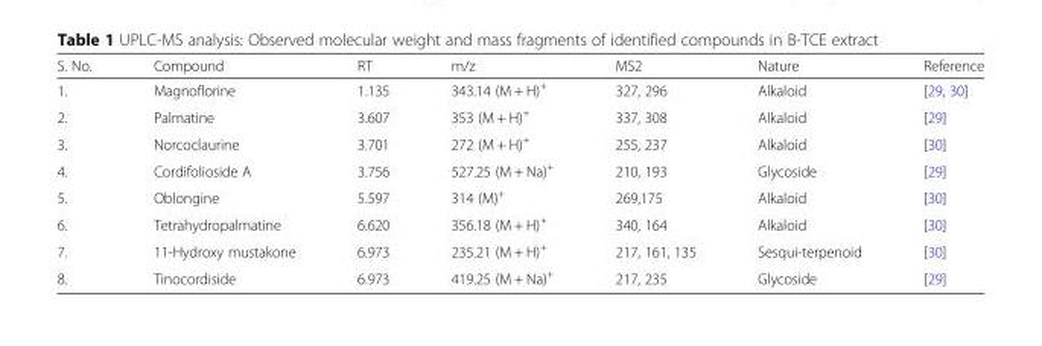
<table><thead><tr><td>S. No.</td><td>Compound</td><td>RT</td><td>m/z</td><td>MS2</td><td>Nature</td><td>Reference</td></tr></thead><tbody><tr><td>1.</td><td>Magnoflorine</td><td>1.135</td><td>343.14 (M + H)<sup>+</sup></td><td>327, 296</td><td>Alkaloid</td><td>[29, 30]</td></tr><tr><td>2.</td><td>Palmatine</td><td>3.607</td><td>353 (M + H)<sup>+</sup></td><td>337, 308</td><td>Alkaloid</td><td>[29]</td></tr><tr><td>3.</td><td>Norcoclaurine</td><td>3.701</td><td>272 (M + H)<sup>+</sup></td><td>255, 237</td><td>Alkaloid</td><td>[30]</td></tr><tr><td>4.</td><td>Cordifolioside A</td><td>3.756</td><td>527.25 (M + Na)<sup>+</sup></td><td>210, 193</td><td>Glycoside</td><td>[29]</td></tr><tr><td>5.</td><td>Oblongine</td><td>5.597</td><td>314 (M)<sup>+</sup></td><td>269,175</td><td>Alkaloid</td><td>[30]</td></tr><tr><td>6.</td><td>Tetrahydropalmatine</td><td>6.620</td><td>356.18 (M + H)<sup>+</sup></td><td>340, 164</td><td>Alkaloid</td><td>[30]</td></tr><tr><td>7.</td><td>11-Hydroxy mustakone</td><td>6.973</td><td>235.21 (M + H)<sup>+</sup></td><td>217, 161, 135</td><td>Sesqui-terpenoid</td><td>[30]</td></tr><tr><td>8.</td><td>Tinocordiside</td><td>6.973</td><td>419.25 (M + Na)<sup>+</sup></td><td>217, 235</td><td>Glycoside</td><td>[29]</td></tr></tbody></table>